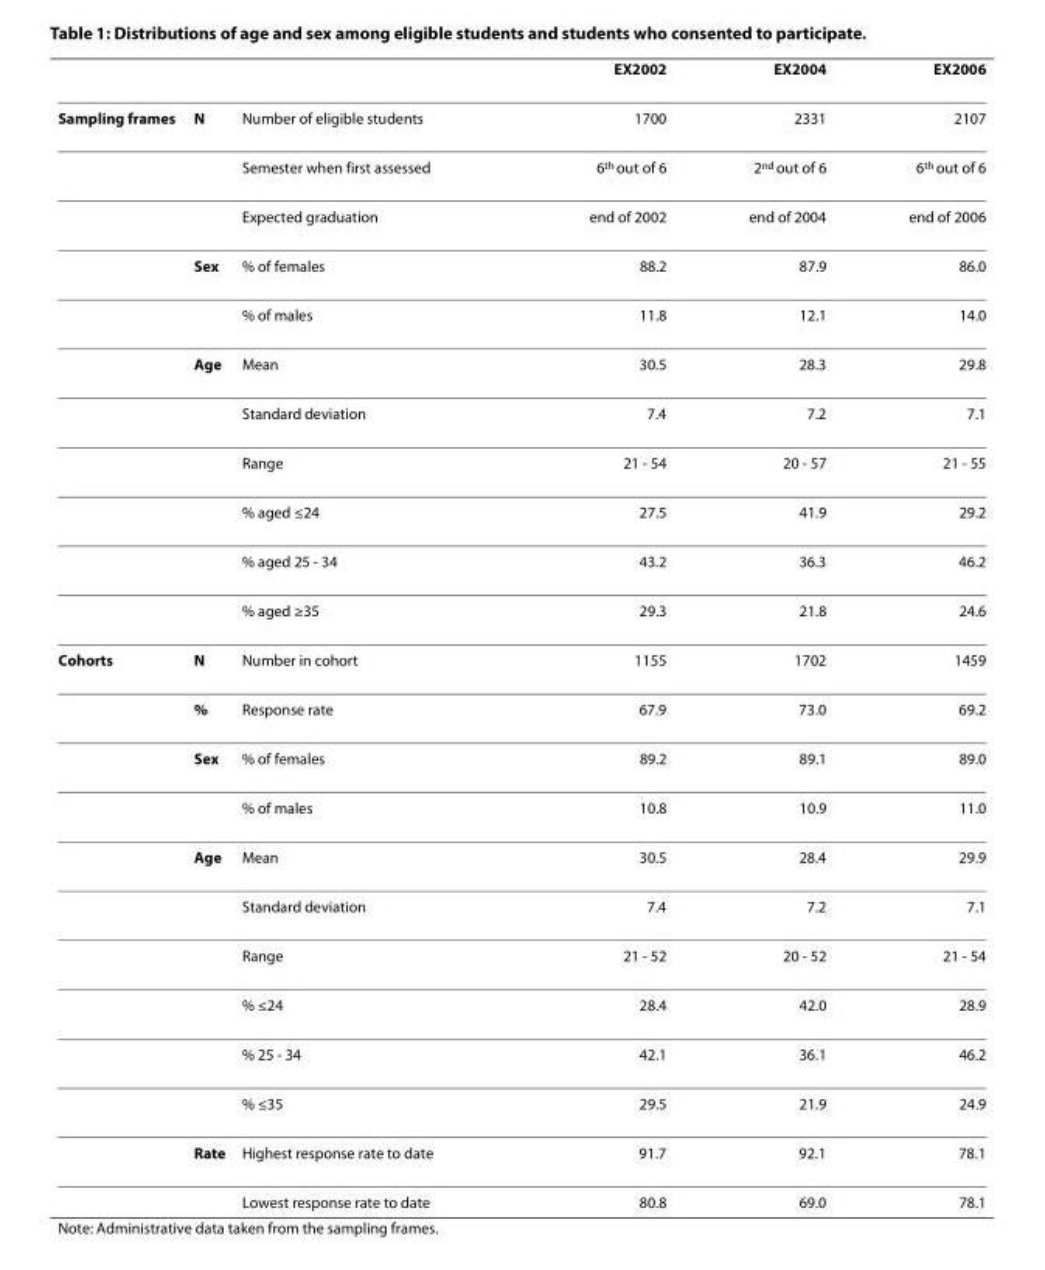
<table><thead><tr><td></td><td></td><td></td><td>EX2002</td><td>EX2004</td><td>EX2006</td></tr></thead><tbody><tr><td rowspan="11">Sampling frames</td><td>N</td><td>Number of eligible students</td><td>1700</td><td>2331</td><td>2107</td></tr><tr><td></td><td>Semester when first assessed</td><td>6<sup>th</sup> out of 6</td><td>2<sup>nd</sup> out of 6</td><td>6<sup>th</sup> out of 6</td></tr><tr><td></td><td>Expected graduation</td><td>end of 2002</td><td>end of 2004</td><td>end of 2006</td></tr><tr><td>Sex</td><td>% of females</td><td>88.2</td><td>87.9</td><td>86.0</td></tr><tr><td></td><td>% of males</td><td>11.8</td><td>12.1</td><td>14.0</td></tr><tr><td>Age</td><td>Mean</td><td>30.5</td><td>28.3</td><td>29.8</td></tr><tr><td></td><td>Standard deviation</td><td>7.4</td><td>7.2</td><td>7.1</td></tr><tr><td></td><td>Range</td><td>21 - 54</td><td>20 - 57</td><td>21 - 55</td></tr><tr><td></td><td>% aged ≤24</td><td>27.5</td><td>41.9</td><td>29.2</td></tr><tr><td></td><td>% aged 25 - 34</td><td>43.2</td><td>36.3</td><td>46.2</td></tr><tr><td></td><td>% aged ≥35</td><td>29.3</td><td>21.8</td><td>24.6</td></tr><tr><td rowspan="12">Cohorts</td><td>N</td><td>Number in cohort</td><td>1155</td><td>1702</td><td>1459</td></tr><tr><td>%</td><td>Response rate</td><td>67.9</td><td>73.0</td><td>69.2</td></tr><tr><td>Sex</td><td>% of females</td><td>89.2</td><td>89.1</td><td>89.0</td></tr><tr><td></td><td>% of males</td><td>10.8</td><td>10.9</td><td>11.0</td></tr><tr><td>Age</td><td>Mean</td><td>30.5</td><td>28.4</td><td>29.9</td></tr><tr><td></td><td>Standard deviation</td><td>7.4</td><td>7.2</td><td>7.1</td></tr><tr><td></td><td>Range</td><td>21 - 52</td><td>20 - 52</td><td>21 - 54</td></tr><tr><td></td><td>% ≤24</td><td>28.4</td><td>42.0</td><td>28.9</td></tr><tr><td></td><td>% 25 - 34</td><td>42.1</td><td>36.1</td><td>46.2</td></tr><tr><td></td><td>% ≤35</td><td>29.5</td><td>21.9</td><td>24.9</td></tr><tr><td>Rate</td><td>Highest response rate to date</td><td>91.7</td><td>92.1</td><td>78.1</td></tr><tr><td></td><td>Lowest response rate to date</td><td>80.8</td><td>69.0</td><td>78.1</td></tr></tbody></table>